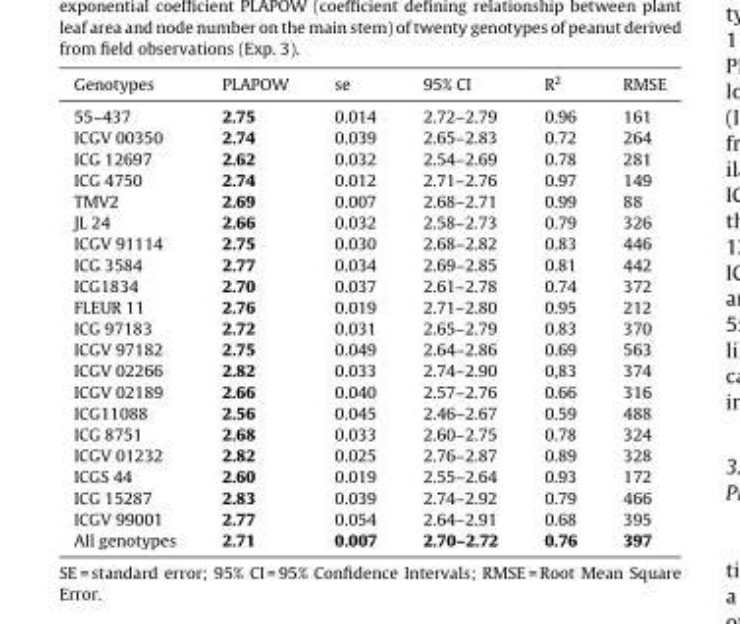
<table><thead><tr><td>Genotypes</td><td>PLAPOW</td><td>se</td><td>95% CI</td><td>R<sup>2</sup></td><td>RMSE</td></tr></thead><tbody><tr><td>55–437</td><td>2.75</td><td>0.014</td><td>2.72–2.79</td><td>0.96</td><td>161</td></tr><tr><td>ICGV 00350</td><td>2.74</td><td>0.039</td><td>2.65–2.83</td><td>0.72</td><td>264</td></tr><tr><td>ICG 12697</td><td>2.62</td><td>0.032</td><td>2.54–2.69</td><td>0.78</td><td>281</td></tr><tr><td>ICG 4750</td><td>2.74</td><td>0.012</td><td>2.71–2.76</td><td>0.97</td><td>149</td></tr><tr><td>TMV2</td><td>2.69</td><td>0.007</td><td>2.68–2.71</td><td>0.99</td><td>88</td></tr><tr><td>JL 24</td><td>2.66</td><td>0.032</td><td>2.58–2.73</td><td>0.79</td><td>326</td></tr><tr><td>ICGV 91114</td><td>2.75</td><td>0.030</td><td>2.68–2.82</td><td>0.83</td><td>446</td></tr><tr><td>ICG 3584</td><td>2.77</td><td>0.034</td><td>2.69–2.85</td><td>0.81</td><td>442</td></tr><tr><td>ICG1834</td><td>2.70</td><td>0.037</td><td>2.61–2.78</td><td>0.74</td><td>372</td></tr><tr><td>FLEUR 11</td><td>2.76</td><td>0.019</td><td>2.71–2.80</td><td>0.95</td><td>212</td></tr><tr><td>ICG 97183</td><td>2.72</td><td>0.031</td><td>2.65–2.79</td><td>0.83</td><td>370</td></tr><tr><td>ICGV 97182</td><td>2.75</td><td>0.049</td><td>2.64–2.86</td><td>0.69</td><td>563</td></tr><tr><td>ICGV 02266</td><td>2.82</td><td>0.033</td><td>2.74–2.90</td><td>0,83</td><td>374</td></tr><tr><td>ICGV 02189</td><td>2.66</td><td>0.040</td><td>2.57–2.76</td><td>0.66</td><td>316</td></tr><tr><td>ICG11088</td><td>2.56</td><td>0.045</td><td>2.46–2.67</td><td>0.59</td><td>488</td></tr><tr><td>ICG 8751</td><td>2.68</td><td>0.033</td><td>2.60–2.75</td><td>0.78</td><td>324</td></tr><tr><td>ICGV 01232</td><td>2.82</td><td>0.025</td><td>2.76–2.87</td><td>0.89</td><td>328</td></tr><tr><td>ICGS 44</td><td>2.60</td><td>0.019</td><td>2.55–2.64</td><td>0.93</td><td>172</td></tr><tr><td>ICG 15287</td><td>2.83</td><td>0.039</td><td>2.74–2.92</td><td>0.79</td><td>466</td></tr><tr><td>ICGV 99001</td><td>2.77</td><td>0.054</td><td>2.64–2.91</td><td>0.68</td><td>395</td></tr><tr><td>All genotypes</td><td>2.71</td><td>0.007</td><td>2.70–2.72</td><td>0.76</td><td>397</td></tr></tbody></table>